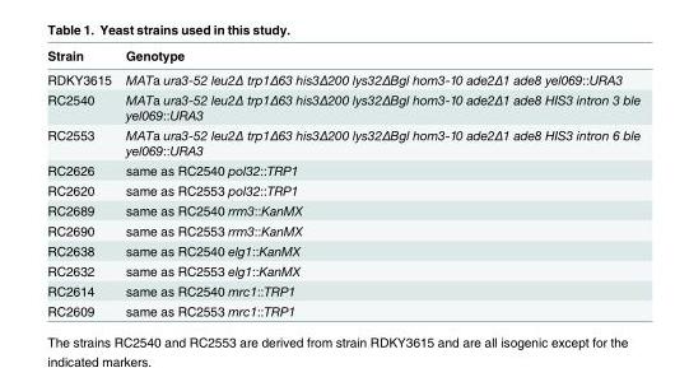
<table><thead><tr><td>Strain</td><td>Genotype</td></tr></thead><tbody><tr><td>RDKY3615</td><td>MATa ura3-52 leu2Δ trp1Δ63 his3Δ200 lys32ΔBgl hom3-10 ade2Δ1 ade8 yel069::URA3</td></tr><tr><td>RC2540</td><td>MATa ura3-52 leu2Δ trp1Δ63 his3Δ200 lys32ΔBgl hom3-10 ade2Δ1 ade8 HIS3 intron 3 ble yel069::URA3</td></tr><tr><td>RC2553</td><td>MATa ura3-52 leu2Δ trp1Δ63 his3Δ200 lys32ΔBgl hom3-10 ade2Δ1 ade8 HIS3 intron 6 ble yel069::URA3</td></tr><tr><td>RC2626</td><td>same as RC2540 pol32::TRP1</td></tr><tr><td>RC2620</td><td>same as RC2553 pol32::TRP1</td></tr><tr><td>RC2689</td><td>same as RC2540 rrm3::KanMX</td></tr><tr><td>RC2690</td><td>same as RC2553 rrm3::KanMX</td></tr><tr><td>RC2638</td><td>same as RC2540 elg1::KanMX</td></tr><tr><td>RC2632</td><td>same as RC2553 elg1::KanMX</td></tr><tr><td>RC2614</td><td>same as RC2540 mrc1::TRP1</td></tr><tr><td>RC2609</td><td>same as RC2553 mrc1::TRP1</td></tr></tbody></table>